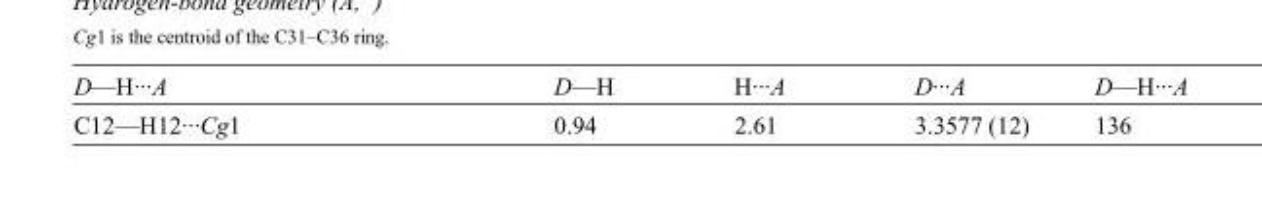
<table><tbody><tr><td>D—H···A</td><td>D—H</td><td>H···A</td><td>D···A</td><td>D—H···A</td></tr><tr><td>C12—H12···Cg1</td><td>0.94</td><td>2.61</td><td>3.3577 (12)</td><td>136</td></tr></tbody></table>